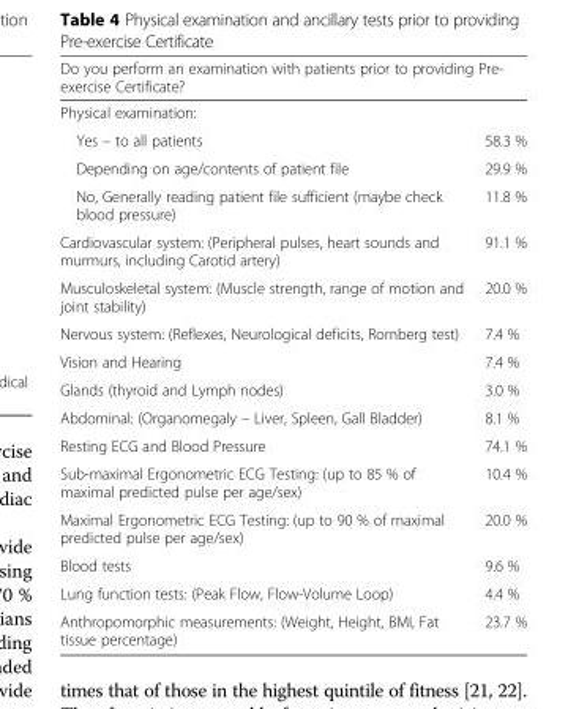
<table><thead><tr><td rowspan="2" colspan="2">Do you perform an examination with patients prior to providing Pre- exercise Certificate? Physical examination:</td></tr><tr></tr><tr><td>Yes – to all patients</td><td>58.3 %</td></tr></thead><tbody><tr><td>Depending on age/contents of patient file</td><td>29.9 %</td></tr><tr><td>No, Generally reading patient file sufficient (maybe check blood pressure)</td><td>11.8 %</td></tr><tr><td>Cardiovascular system: (Peripheral pulses, heart sounds and murmurs, including Carotid artery)</td><td>91.1 %</td></tr><tr><td>Musculoskeletal system: (Muscle strength, range of motion and joint stability)</td><td>20.0 %</td></tr><tr><td>Nervous system: (Reflexes, Neurological deficits, Romberg test)</td><td>7.4 %</td></tr><tr><td>Vision and Hearing</td><td>7.4 %</td></tr><tr><td>Glands (thyroid and Lymph nodes)</td><td>3.0 %</td></tr><tr><td>Abdominal: (Organomegaly – Liver, Spleen, Gall Bladder)</td><td>8.1 %</td></tr><tr><td>Resting ECG and Blood Pressure</td><td>74.1 %</td></tr><tr><td>Sub-maximal Ergonometric ECG Testing: (up to 85 % of maximal predicted pulse per age/sex)</td><td>10.4 %</td></tr><tr><td>Maximal Ergonometric ECG Testing: (up to 90 % of maximal predicted pulse per age/sex)</td><td>20.0 %</td></tr><tr><td>Blood tests</td><td>9.6 %</td></tr><tr><td>Lung function tests: (Peak Flow, Flow-Volume Loop)</td><td>4.4 %</td></tr><tr><td>Anthropomorphic measurements: (Weight, Height, BMI, Fat tissue percentage)</td><td>23.7 %</td></tr></tbody></table>